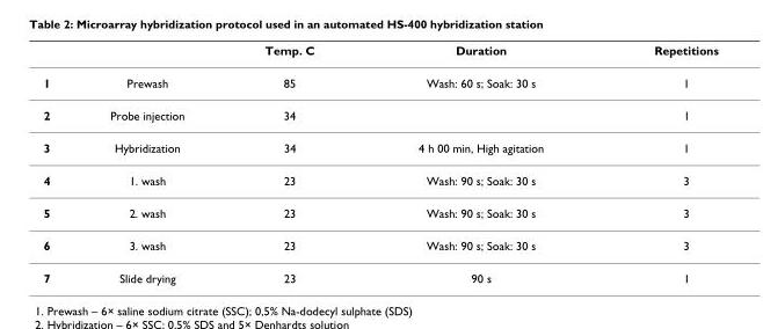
<table><thead><tr><td></td><td></td><td>Temp. C</td><td>Duration</td><td>Repetitions</td></tr></thead><tbody><tr><td>1</td><td>Prewash</td><td>85</td><td>Wash: 60 s; Soak: 30 s</td><td>1</td></tr><tr><td>2</td><td>Probe injection</td><td>34</td><td></td><td>1</td></tr><tr><td>3</td><td>Hybridization</td><td>34</td><td>4 h 00 min, High agitation</td><td>1</td></tr><tr><td>4</td><td>1. wash</td><td>23</td><td>Wash: 90 s; Soak: 30 s</td><td>3</td></tr><tr><td>5</td><td>2. wash</td><td>23</td><td>Wash: 90 s; Soak: 30 s</td><td>3</td></tr><tr><td>6</td><td>3. wash</td><td>23</td><td>Wash: 90 s; Soak: 30 s</td><td>3</td></tr><tr><td>7</td><td>Slide drying</td><td>23</td><td>90 s</td><td>1</td></tr></tbody></table>